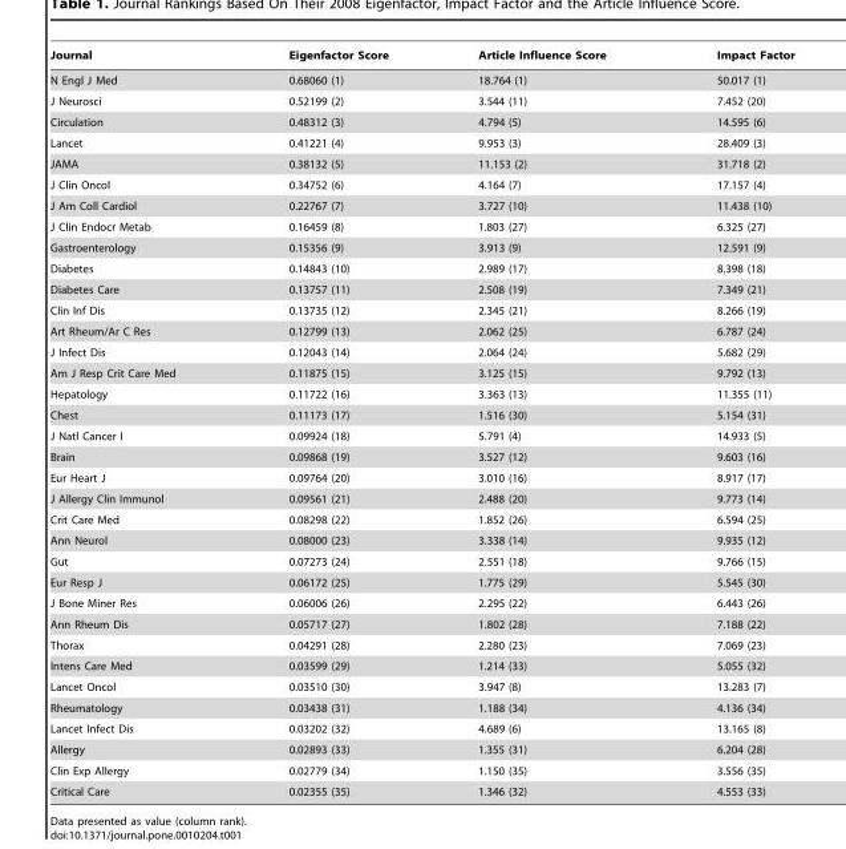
<table><thead><tr><td>Journal</td><td>Eigenfactor Score</td><td>Article Influence Score</td><td>Impact Factor</td></tr></thead><tbody><tr><td>N Engl J Med</td><td>0.68060 (1)</td><td>18.764 (1)</td><td>50.017 (1)</td></tr><tr><td>J Neurosci</td><td>0.52199 (2)</td><td>3.544 (11)</td><td>7.452 (20)</td></tr><tr><td>Circulation</td><td>0.48312 (3)</td><td>4.794 (5)</td><td>14.595 (6)</td></tr><tr><td>Lancet</td><td>0.41221 (4)</td><td>9.953 (3)</td><td>28.409 (3)</td></tr><tr><td>JAMA</td><td>0.38132 (5)</td><td>11.153 (2)</td><td>31.718 (2)</td></tr><tr><td>J Clin Oncol</td><td>0.34752 (6)</td><td>4.164 (7)</td><td>17.157 (4)</td></tr><tr><td>J Am Coll Cardiol</td><td>0.22767 (7)</td><td>3.727 (10)</td><td>11.438 (10)</td></tr><tr><td>J Clin Endocr Metab</td><td>0.16459 (8)</td><td>1.803 (27)</td><td>6.325 (27)</td></tr><tr><td>Gastroenterology</td><td>0.15356 (9)</td><td>3.913 (9)</td><td>12.591 (9)</td></tr><tr><td>Diabetes</td><td>0.14843 (10)</td><td>2.989 (17)</td><td>8.398 (18)</td></tr><tr><td>Diabetes Care</td><td>0.13757 (11)</td><td>2.508 (19)</td><td>7.349 (21)</td></tr><tr><td>Clin Inf Dis</td><td>0.13735 (12)</td><td>2.345 (21)</td><td>8.266 (19)</td></tr><tr><td>Art Rheum/Ar C Res</td><td>0.12799 (13)</td><td>2.062 (25)</td><td>6.787 (24)</td></tr><tr><td>J Infect Dis</td><td>0.12043 (14)</td><td>2.064 (24)</td><td>5.682 (29)</td></tr><tr><td>Am J Resp Crit Care Med</td><td>0.11875 (15)</td><td>3.125 (15)</td><td>9.792 (13)</td></tr><tr><td>Hepatology</td><td>0.11722 (16)</td><td>3.363 (13)</td><td>11.355 (11)</td></tr><tr><td>Chest</td><td>0.11173 (17)</td><td>1.516 (30)</td><td>5.154 (31)</td></tr><tr><td>J Natl Cancer I</td><td>0.09924 (18)</td><td>5.791 (4)</td><td>14.933 (5)</td></tr><tr><td>Brain</td><td>0.09868 (19)</td><td>3.527 (12)</td><td>9.603 (16)</td></tr><tr><td>Eur Heart J</td><td>0.09764 (20)</td><td>3.010 (16)</td><td>8.917 (17)</td></tr><tr><td>J Allergy Clin Immunol</td><td>0.09561 (21)</td><td>2.488 (20)</td><td>9.773 (14)</td></tr><tr><td>Crit Care Med</td><td>0.08298 (22)</td><td>1.852 (26)</td><td>6.594 (25)</td></tr><tr><td>Ann Neurol</td><td>0.08000 (23)</td><td>3.338 (14)</td><td>9.935 (12)</td></tr><tr><td>Gut</td><td>0.07273 (24)</td><td>2.551 (18)</td><td>9.766 (15)</td></tr><tr><td>Eur Resp J</td><td>0.06172 (25)</td><td>1.775 (29)</td><td>5.545 (30)</td></tr><tr><td>J Bone Miner Res</td><td>0.06006 (26)</td><td>2.295 (22)</td><td>6.443 (26)</td></tr><tr><td>Ann Rheum Dis</td><td>0.05717 (27)</td><td>1.802 (28)</td><td>7.188 (22)</td></tr><tr><td>Thorax</td><td>0.04291 (28)</td><td>2.280 (23)</td><td>7.069 (23)</td></tr><tr><td>Intens Care Med</td><td>0.03599 (29)</td><td>1.214 (33)</td><td>5.055 (32)</td></tr><tr><td>Lancet Oncol</td><td>0.03510 (30)</td><td>3.947 (8)</td><td>13.283 (7)</td></tr><tr><td>Rheumatology</td><td>0.03438 (31)</td><td>1.188 (34)</td><td>4.136 (34)</td></tr><tr><td>Lancet Infect Dis</td><td>0.03202 (32)</td><td>4.689 (6)</td><td>13.165 (8)</td></tr><tr><td>Allergy</td><td>0.02893 (33)</td><td>1.355 (31)</td><td>6.204 (28)</td></tr><tr><td>Clin Exp Allergy</td><td>0.02779 (34)</td><td>1.150 (35)</td><td>3.556 (35)</td></tr><tr><td>Critical Care</td><td>0.02355 (35)</td><td>1.346 (32)</td><td>4.553 (33)</td></tr></tbody></table>